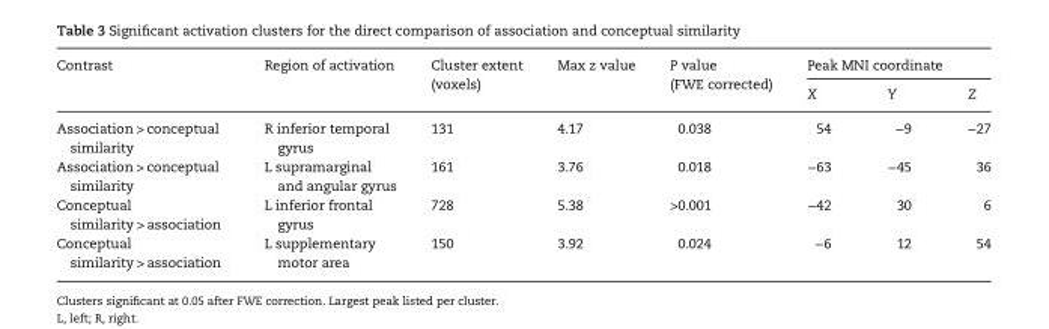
<table><thead><tr><td rowspan="2">Contrast</td><td rowspan="2">Region of activation</td><td rowspan="2">Cluster extent (voxels)</td><td rowspan="2">Max z value</td><td rowspan="2">P value (FWE corrected)</td><td colspan="3">Peak MNI coordinate</td></tr><tr><td>X</td><td>Y</td><td>Z</td></tr></thead><tbody><tr><td>Association &gt; conceptual similarity</td><td>R inferior temporal gyrus</td><td>131</td><td>4.17</td><td>0.038</td><td>54</td><td>−9</td><td>−27</td></tr><tr><td>Association &gt; conceptual similarity</td><td>L supramarginal and angular gyrus</td><td>161</td><td>3.76</td><td>0.018</td><td>−63</td><td>−45</td><td>36</td></tr><tr><td>Conceptual similarity &gt; association</td><td>L inferior frontal gyrus</td><td>728</td><td>5.38</td><td>&gt;0.001</td><td>−42</td><td>30</td><td>6</td></tr><tr><td>Conceptual similarity &gt; association</td><td>L supplementary motor area</td><td>150</td><td>3.92</td><td>0.024</td><td>−6</td><td>12</td><td>54</td></tr></tbody></table>